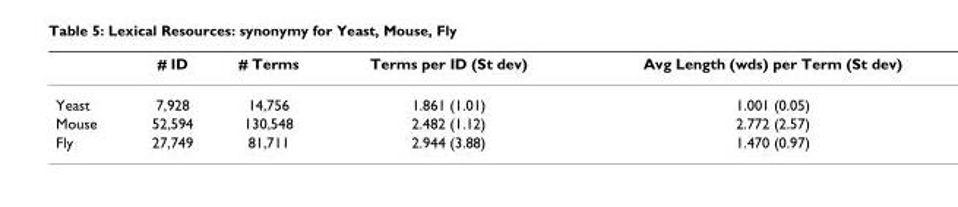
<table><thead><tr><td></td><td># ID</td><td># Terms</td><td>Terms per ID (St dev)</td><td>Avg Length (wds) per Term (St dev)</td></tr></thead><tbody><tr><td>Yeast</td><td>7,928</td><td>14,756</td><td>1.861 (1.01)</td><td>1.001 (0.05)</td></tr><tr><td>Mouse</td><td>52,594</td><td>130,548</td><td>2.482 (1.12)</td><td>2.772 (2.57)</td></tr><tr><td>Fly</td><td>27,749</td><td>81,711</td><td>2.944 (3.88)</td><td>1.470 (0.97)</td></tr></tbody></table>